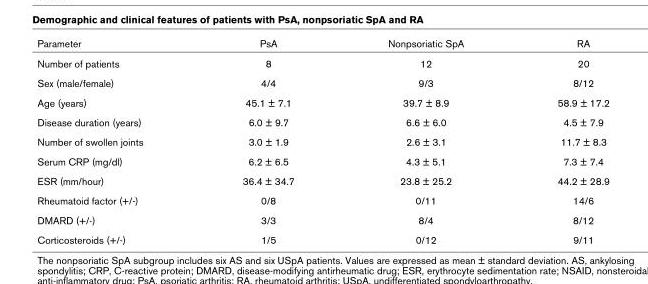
<table><thead><tr><td>Parameter</td><td>PsA</td><td>Nonpsoriatic SpA</td><td>RA</td></tr></thead><tbody><tr><td>Number of patients</td><td>8</td><td>12</td><td>20</td></tr><tr><td>Sex (male/female)</td><td>4/4</td><td>9/3</td><td>8/12</td></tr><tr><td>Age (years)</td><td>45.1 ± 7.1</td><td>39.7 ± 8.9</td><td>58.9 ± 17.2</td></tr><tr><td>Disease duration (years)</td><td>6.0 ± 9.7</td><td>6.6 ± 6.0</td><td>4.5 ± 7.9</td></tr><tr><td>Number of swollen joints</td><td>3.0 ± 1.9</td><td>2.6 ± 3.1</td><td>11.7 ± 8.3</td></tr><tr><td>Serum CRP (mg/dl)</td><td>6.2 ± 6.5</td><td>4.3 ± 5.1</td><td>7.3 ± 7.4</td></tr><tr><td>ESR (mm/hour)</td><td>36.4 ± 34.7</td><td>23.8 ± 25.2</td><td>44.2 ± 28.9</td></tr><tr><td>Rheumatoid factor (+/-)</td><td>0/8</td><td>0/11</td><td>14/6</td></tr><tr><td>DMARD (+/-)</td><td>3/3</td><td>8/4</td><td>8/12</td></tr><tr><td>Corticosteroids (+/-)</td><td>1/5</td><td>0/12</td><td>9/11</td></tr></tbody></table>